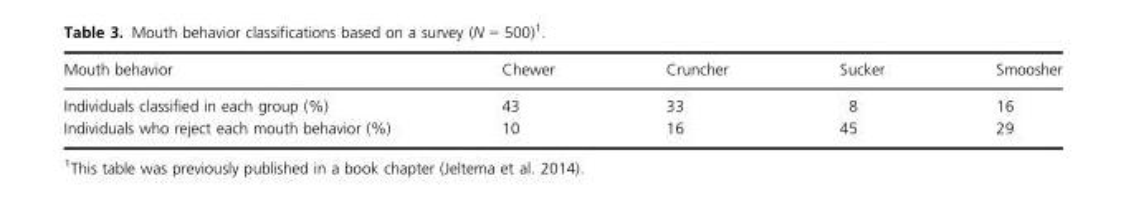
<table><thead><tr><td>Mouth behavior</td><td>Chewer</td><td>Cruncher</td><td>Sucker</td><td>Smoosher</td></tr></thead><tbody><tr><td>Individuals classified in each group (%)</td><td>43</td><td>33</td><td>8</td><td>16</td></tr><tr><td>Individuals who reject each mouth behavior (%)</td><td>10</td><td>16</td><td>45</td><td>29</td></tr></tbody></table>